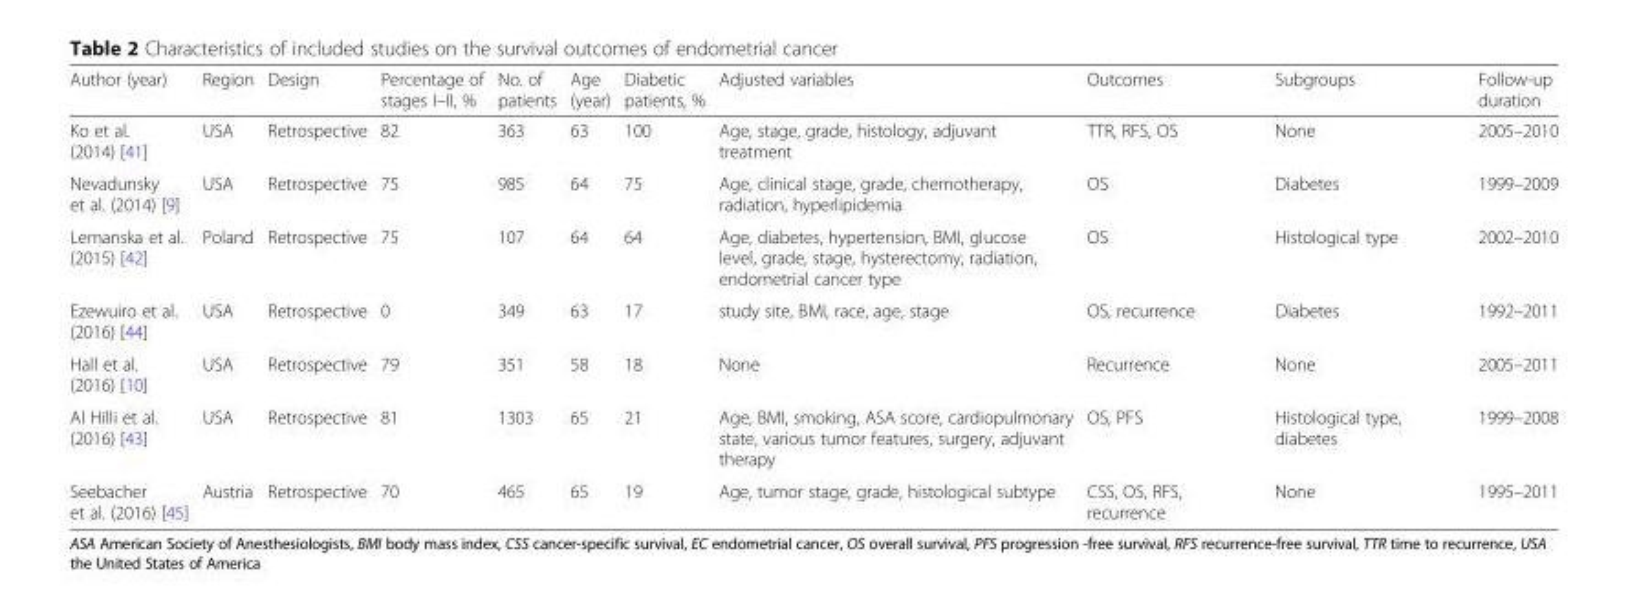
<table><thead><tr><td>Author (year)</td><td>Region</td><td>Design</td><td>Percentage of stages I–II, %</td><td>No. of patients</td><td>Age (year)</td><td>Diabetic patients, %</td><td>Adjusted variables</td><td>Outcomes</td><td>Subgroups</td><td>Follow-up duration</td></tr></thead><tbody><tr><td>Ko et al. (2014) [41]</td><td>USA</td><td>Retrospective</td><td>82</td><td>363</td><td>63</td><td>100</td><td>Age, stage, grade, histology, adjuvant treatment</td><td>TTR, RFS, OS</td><td>None</td><td>2005–2010</td></tr><tr><td>Nevadunsky et al. (2014) [9]</td><td>USA</td><td>Retrospective</td><td>75</td><td>985</td><td>64</td><td>75</td><td>Age, clinical stage, grade, chemotherapy, radiation, hyperlipidemia</td><td>OS</td><td>Diabetes</td><td>1999–2009</td></tr><tr><td>Lemanska et al. (2015) [42]</td><td>Poland</td><td>Retrospective</td><td>75</td><td>107</td><td>64</td><td>64</td><td>Age, diabetes, hypertension, BMI, glucose level, grade, stage, hysterectomy, radiation, endometrial cancer type</td><td>OS</td><td>Histological type</td><td>2002–2010</td></tr><tr><td>Ezewuiro et al. (2016) [44]</td><td>USA</td><td>Retrospective</td><td>0</td><td>349</td><td>63</td><td>17</td><td>study site, BMI, race, age, stage</td><td>OS, recurrence</td><td>Diabetes</td><td>1992–2011</td></tr><tr><td>Hall et al. (2016) [10]</td><td>USA</td><td>Retrospective</td><td>79</td><td>351</td><td>58</td><td>18</td><td>None</td><td>Recurrence</td><td>None</td><td>2005–2011</td></tr><tr><td>Al Hilli et al. (2016) [43]</td><td>USA</td><td>Retrospective</td><td>81</td><td>1303</td><td>65</td><td>21</td><td>Age, BMI, smoking, ASA score, cardiopulmonary state, various tumor features, surgery, adjuvant therapy</td><td>OS, PFS</td><td>Histological type, diabetes</td><td>1999–2008</td></tr><tr><td>Seebacher et al. (2016) [45]</td><td>Austria</td><td>Retrospective</td><td>70</td><td>465</td><td>65</td><td>19</td><td>Age, tumor stage, grade, histological subtype</td><td>CSS, OS, RFS, recurrence</td><td>None</td><td>1995–2011</td></tr></tbody></table>